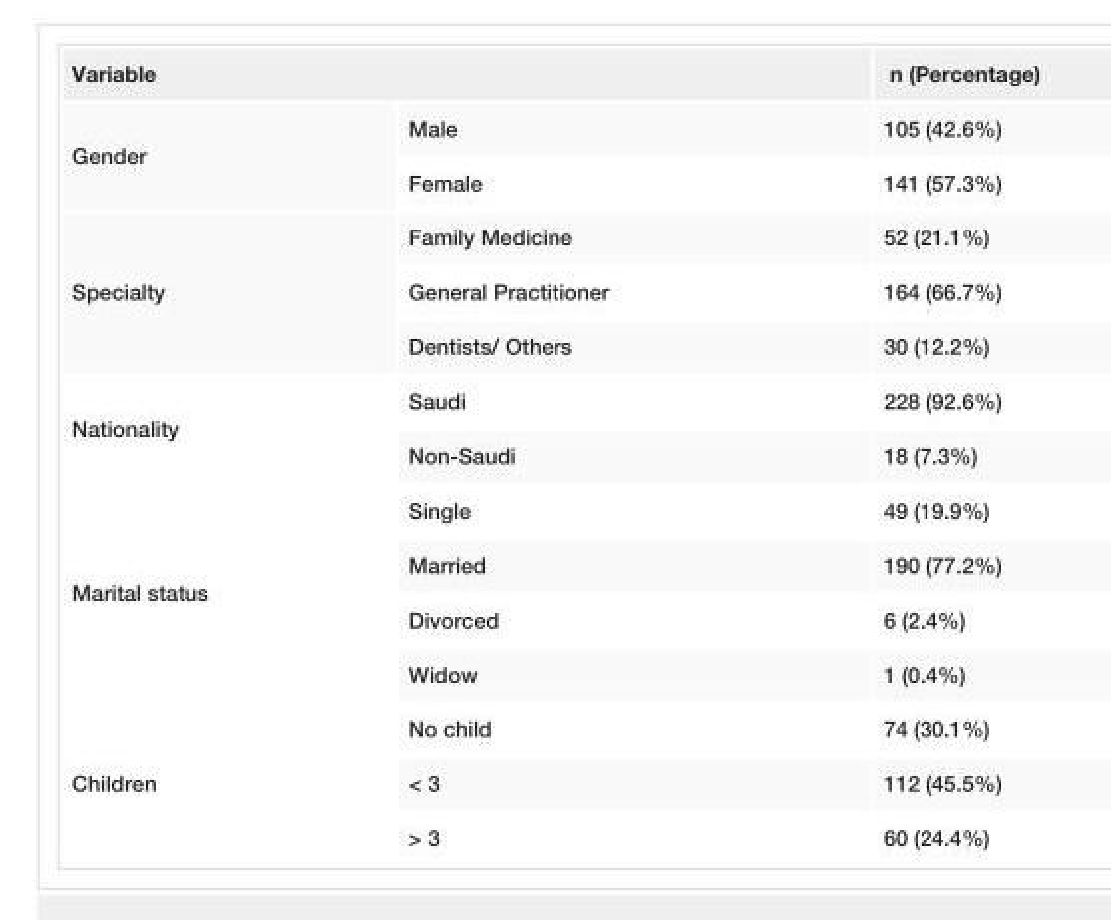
<table><tbody><tr><td colspan="2">Variable</td><td>n (Percentage)</td></tr><tr><td rowspan="2">Gender</td><td>Male</td><td>105 (42.6%)</td></tr><tr><td>Female</td><td>141 (57.3%)</td></tr><tr><td rowspan="3">Specialty</td><td>Family Medicine</td><td>52 (21.1%)</td></tr><tr><td>General Practitioner</td><td>164 (66.7%)</td></tr><tr><td>Dentists/ Others</td><td>30 (12.2%)</td></tr><tr><td rowspan="2">Nationality</td><td>Saudi</td><td>228 (92.6%)</td></tr><tr><td>Non-Saudi</td><td>18 (7.3%)</td></tr><tr><td rowspan="4">Marital status</td><td>Single</td><td>49 (19.9%)</td></tr><tr><td>Married</td><td>190 (77.2%)</td></tr><tr><td>Divorced</td><td>6 (2.4%)</td></tr><tr><td>Widow</td><td>1 (0.4%)</td></tr><tr><td rowspan="3">Children</td><td>No child</td><td>74 (30.1%)</td></tr><tr><td>&lt; 3</td><td>112 (45.5%)</td></tr><tr><td>&gt; 3</td><td>60 (24.4%)</td></tr></tbody></table>